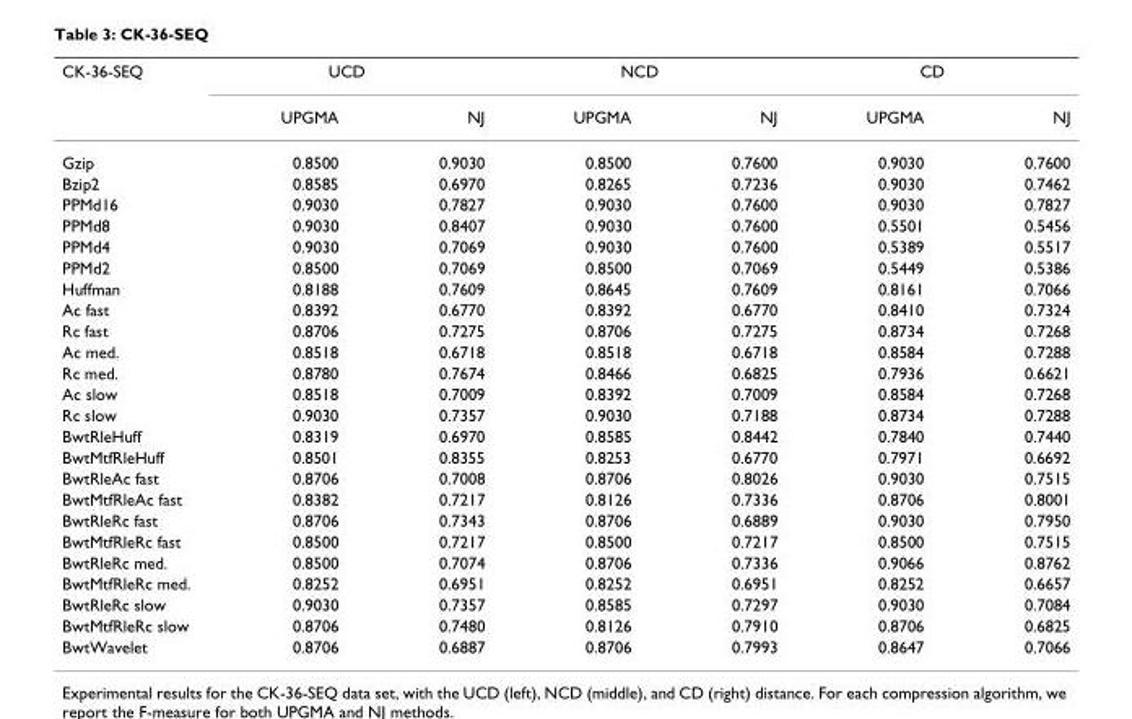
<table><thead><tr><td rowspan="2">CK-36-SEQ</td><td colspan="2">UCD</td><td colspan="2">NCD</td><td colspan="2">CD</td></tr><tr><td>UPGMA</td><td>NJ</td><td>UPGMA</td><td>NJ</td><td>UPGMA</td><td>NJ</td></tr></thead><tbody><tr><td>Gzip</td><td>0.8500</td><td>0.9030</td><td>0.8500</td><td>0.7600</td><td>0.9030</td><td>0.7600</td></tr><tr><td>Bzip2</td><td>0.8585</td><td>0.6970</td><td>0.8265</td><td>0.7236</td><td>0.9030</td><td>0.7462</td></tr><tr><td>PPMd16</td><td>0.9030</td><td>0.7827</td><td>0.9030</td><td>0.7600</td><td>0.9030</td><td>0.7827</td></tr><tr><td>PPMd8</td><td>0.9030</td><td>0.8407</td><td>0.9030</td><td>0.7600</td><td>0.5501</td><td>0.5456</td></tr><tr><td>PPMd4</td><td>0.9030</td><td>0.7069</td><td>0.9030</td><td>0.7600</td><td>0.5389</td><td>0.5517</td></tr><tr><td>PPMd2</td><td>0.8500</td><td>0.7069</td><td>0.8500</td><td>0.7069</td><td>0.5449</td><td>0.5386</td></tr><tr><td>Huffman</td><td>0.8188</td><td>0.7609</td><td>0.8645</td><td>0.7609</td><td>0.8161</td><td>0.7066</td></tr><tr><td>Ac fast</td><td>0.8392</td><td>0.6770</td><td>0.8392</td><td>0.6770</td><td>0.8410</td><td>0.7324</td></tr><tr><td>Rc fast</td><td>0.8706</td><td>0.7275</td><td>0.8706</td><td>0.7275</td><td>0.8734</td><td>0.7268</td></tr><tr><td>Ac med.</td><td>0.8518</td><td>0.6718</td><td>0.8518</td><td>0.6718</td><td>0.8584</td><td>0.7288</td></tr><tr><td>Rc med.</td><td>0.8780</td><td>0.7674</td><td>0.8466</td><td>0.6825</td><td>0.7936</td><td>0.6621</td></tr><tr><td>Ac slow</td><td>0.8518</td><td>0.7009</td><td>0.8392</td><td>0.7009</td><td>0.8584</td><td>0.7268</td></tr><tr><td>Rc slow</td><td>0.9030</td><td>0.7357</td><td>0.9030</td><td>0.7188</td><td>0.8734</td><td>0.7288</td></tr><tr><td>BwtRleHuff</td><td>0.8319</td><td>0.6970</td><td>0.8585</td><td>0.8442</td><td>0.7840</td><td>0.7440</td></tr><tr><td>BwtMtfRleHuff</td><td>0.8501</td><td>0.8355</td><td>0.8253</td><td>0.6770</td><td>0.7971</td><td>0.6692</td></tr><tr><td>BwtRleAc fast</td><td>0.8706</td><td>0.7008</td><td>0.8706</td><td>0.8026</td><td>0.9030</td><td>0.7515</td></tr><tr><td>BwtMtfRleAc fast</td><td>0.8382</td><td>0.7217</td><td>0.8126</td><td>0.7336</td><td>0.8706</td><td>0.8001</td></tr><tr><td>BwtRleRc fast</td><td>0.8706</td><td>0.7343</td><td>0.8706</td><td>0.6889</td><td>0.9030</td><td>0.7950</td></tr><tr><td>BwtMtfRleRc fast</td><td>0.8500</td><td>0.7217</td><td>0.8500</td><td>0.7217</td><td>0.8500</td><td>0.7515</td></tr><tr><td>BwtRleRc med.</td><td>0.8500</td><td>0.7074</td><td>0.8706</td><td>0.7336</td><td>0.9066</td><td>0.8762</td></tr><tr><td>BwtMtfRleRc med.</td><td>0.8252</td><td>0.6951</td><td>0.8252</td><td>0.6951</td><td>0.8252</td><td>0.6657</td></tr><tr><td>BwtRleRc slow</td><td>0.9030</td><td>0.7357</td><td>0.8585</td><td>0.7297</td><td>0.9030</td><td>0.7084</td></tr><tr><td>BwtMtfRleRc slow</td><td>0.8706</td><td>0.7480</td><td>0.8126</td><td>0.7910</td><td>0.8706</td><td>0.6825</td></tr><tr><td>BwtWavelet</td><td>0.8706</td><td>0.6887</td><td>0.8706</td><td>0.7993</td><td>0.8647</td><td>0.7066</td></tr></tbody></table>